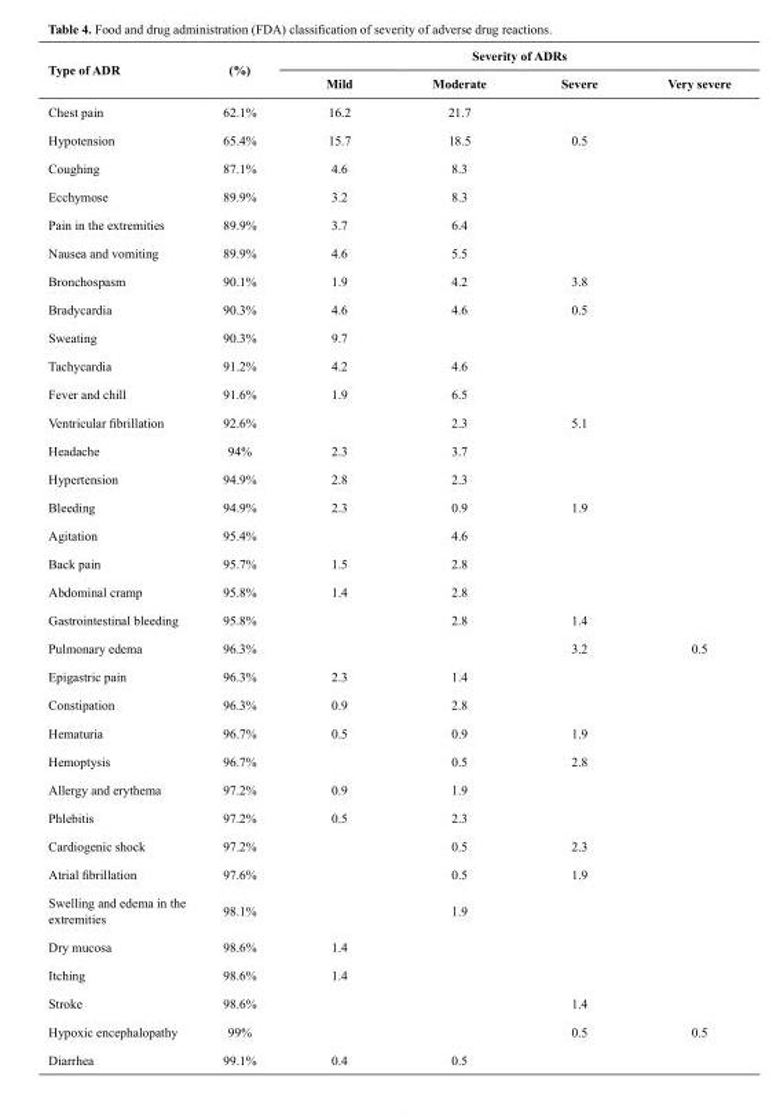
<table><thead><tr><td rowspan="2">Type of ADR</td><td rowspan="2">(%)</td><td colspan="4">Severity of ADRs</td></tr><tr><td>Mild</td><td>Moderate</td><td>Severe</td><td>Very severe</td></tr></thead><tbody><tr><td>Chest pain</td><td>62.1%</td><td>16.2</td><td>21.7</td><td></td><td></td></tr><tr><td>Hypotension</td><td>65.4%</td><td>15.7</td><td>18.5</td><td>0.5</td><td></td></tr><tr><td>Coughing</td><td>87.1%</td><td>4.6</td><td>8.3</td><td></td><td></td></tr><tr><td>Ecchymose</td><td>89.9%</td><td>3.2</td><td>8.3</td><td></td><td></td></tr><tr><td>Pain in the extremities</td><td>89.9%</td><td>3.7</td><td>6.4</td><td></td><td></td></tr><tr><td>Nausea and vomiting</td><td>89.9%</td><td>4.6</td><td>5.5</td><td></td><td></td></tr><tr><td>Bronchospasm</td><td>90.1%</td><td>1.9</td><td>4.2</td><td>3.8</td><td></td></tr><tr><td>Bradycardia</td><td>90.3%</td><td>4.6</td><td>4.6</td><td>0.5</td><td></td></tr><tr><td>Sweating</td><td>90.3%</td><td>9.7</td><td></td><td></td><td></td></tr><tr><td>Tachycardia</td><td>91.2%</td><td>4.2</td><td>4.6</td><td></td><td></td></tr><tr><td>Fever and chill</td><td>91.6%</td><td>1.9</td><td>6.5</td><td></td><td></td></tr><tr><td>Ventricular fibrillation</td><td>92.6%</td><td></td><td>2.3</td><td>5.1</td><td></td></tr><tr><td>Headache</td><td>94%</td><td>2.3</td><td>3.7</td><td></td><td></td></tr><tr><td>Hypertension</td><td>94.9%</td><td>2.8</td><td>2.3</td><td></td><td></td></tr><tr><td>Bleeding</td><td>94.9%</td><td>2.3</td><td>0.9</td><td>1.9</td><td></td></tr><tr><td>Agitation</td><td>95.4%</td><td></td><td>4.6</td><td></td><td></td></tr><tr><td>Back pain</td><td>95.7%</td><td>1.5</td><td>2.8</td><td></td><td></td></tr><tr><td>Abdominal cramp</td><td>95.8%</td><td>1.4</td><td>2.8</td><td></td><td></td></tr><tr><td>Gastrointestinal bleeding</td><td>95.8%</td><td></td><td>2.8</td><td>1.4</td><td></td></tr><tr><td>Pulmonary edema</td><td>96.3%</td><td></td><td></td><td>3.2</td><td>0.5</td></tr><tr><td>Epigastric pain</td><td>96.3%</td><td>2.3</td><td>1.4</td><td></td><td></td></tr><tr><td>Constipation</td><td>96.3%</td><td>0.9</td><td>2.8</td><td></td><td></td></tr><tr><td>Hematuria</td><td>96.7%</td><td>0.5</td><td>0.9</td><td>1.9</td><td></td></tr><tr><td>Hemoptysis</td><td>96.7%</td><td></td><td>0.5</td><td>2.8</td><td></td></tr><tr><td>Allergy and erythema</td><td>97.2%</td><td>0.9</td><td>1.9</td><td></td><td></td></tr><tr><td>Phlebitis</td><td>97.2%</td><td>0.5</td><td>2.3</td><td></td><td></td></tr><tr><td>Cardiogenic shock</td><td>97.2%</td><td></td><td>0.5</td><td>2.3</td><td></td></tr><tr><td>Atrial fibrillation</td><td>97.6%</td><td></td><td>0.5</td><td>1.9</td><td></td></tr><tr><td>Swelling and edema in the extremities</td><td>98.1%</td><td></td><td>1.9</td><td></td><td></td></tr><tr><td>Dry mucosa</td><td>98.6%</td><td>1.4</td><td></td><td></td><td></td></tr><tr><td>Itching</td><td>98.6%</td><td>1.4</td><td></td><td></td><td></td></tr><tr><td>Stroke</td><td>98.6%</td><td></td><td></td><td>1.4</td><td></td></tr><tr><td>Hypoxic encephalopathy</td><td>99%</td><td></td><td></td><td>0.5</td><td>0.5</td></tr><tr><td>Diarrhea</td><td>99.1%</td><td>0.4</td><td>0.5</td><td></td><td></td></tr></tbody></table>